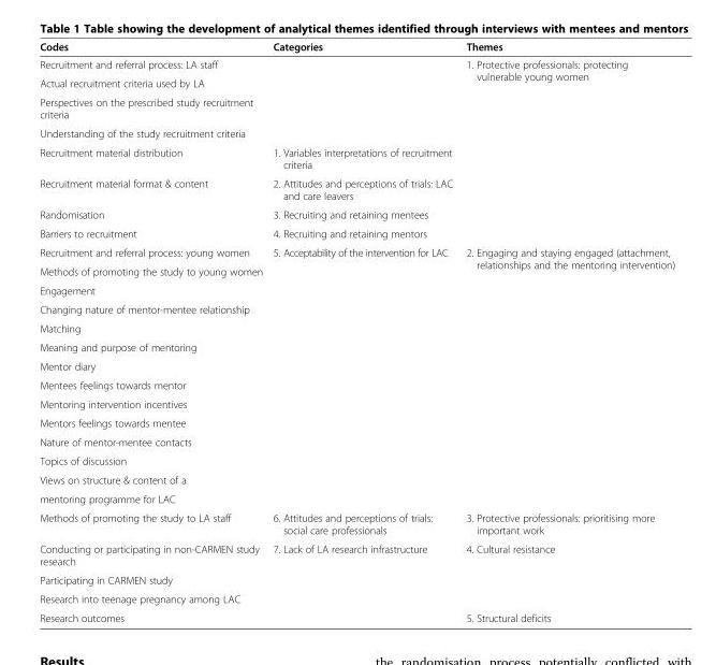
<table><thead><tr><td>Codes</td><td>Categories</td><td>Themes</td></tr></thead><tbody><tr><td>Recruitment and referral process: LA staff</td><td rowspan="4"></td><td rowspan="8">1. Protective professionals: protecting vulnerable young women</td></tr><tr><td>Actual recruitment criteria used by LA</td></tr><tr><td>Perspectives on the prescribed study recruitment criteria</td></tr><tr><td>Understanding of the study recruitment criteria</td></tr><tr><td>Recruitment material distribution</td><td>1. Variables interpretations of recruitment criteria</td></tr><tr><td>Recruitment material format &amp; content</td><td>2. Attitudes and perceptions of trials: LAC and care leavers</td></tr><tr><td>Randomisation</td><td>3. Recruiting and retaining mentees</td></tr><tr><td>Barriers to recruitment</td><td>4. Recruiting and retaining mentors</td></tr><tr><td>Recruitment and referral process: young women</td><td rowspan="14">5. Acceptability of the intervention for LAC</td><td rowspan="14">2. Engaging and staying engaged (attachment, relationships and the mentoring intervention)</td></tr><tr><td>Methods of promoting the study to young women</td></tr><tr><td>Engagement</td></tr><tr><td>Changing nature of mentor-mentee relationship</td></tr><tr><td>Matching</td></tr><tr><td>Meaning and purpose of mentoring</td></tr><tr><td>Mentor diary</td></tr><tr><td>Mentees feelings towards mentor</td></tr><tr><td>Mentoring intervention incentives</td></tr><tr><td>Mentors feelings towards mentee</td></tr><tr><td>Nature of mentor-mentee contacts</td></tr><tr><td>Topics of discussion</td></tr><tr><td>Views on structure &amp; content of a</td></tr><tr><td>mentoring programme for LAC</td></tr><tr><td>Methods of promoting the study to LA staff</td><td>6. Attitudes and perceptions of trials: social care professionals</td><td>3. Protective professionals: prioritising more important work</td></tr><tr><td>Conducting or participating in non-CARMEN study research</td><td rowspan="4">7. Lack of LA research infrastructure</td><td rowspan="3">4. Cultural resistance</td></tr><tr><td>Participating in CARMEN study</td></tr><tr><td>Research into teenage pregnancy among LAC</td></tr><tr><td>Research outcomes</td><td>5. Structural deficits</td></tr></tbody></table>